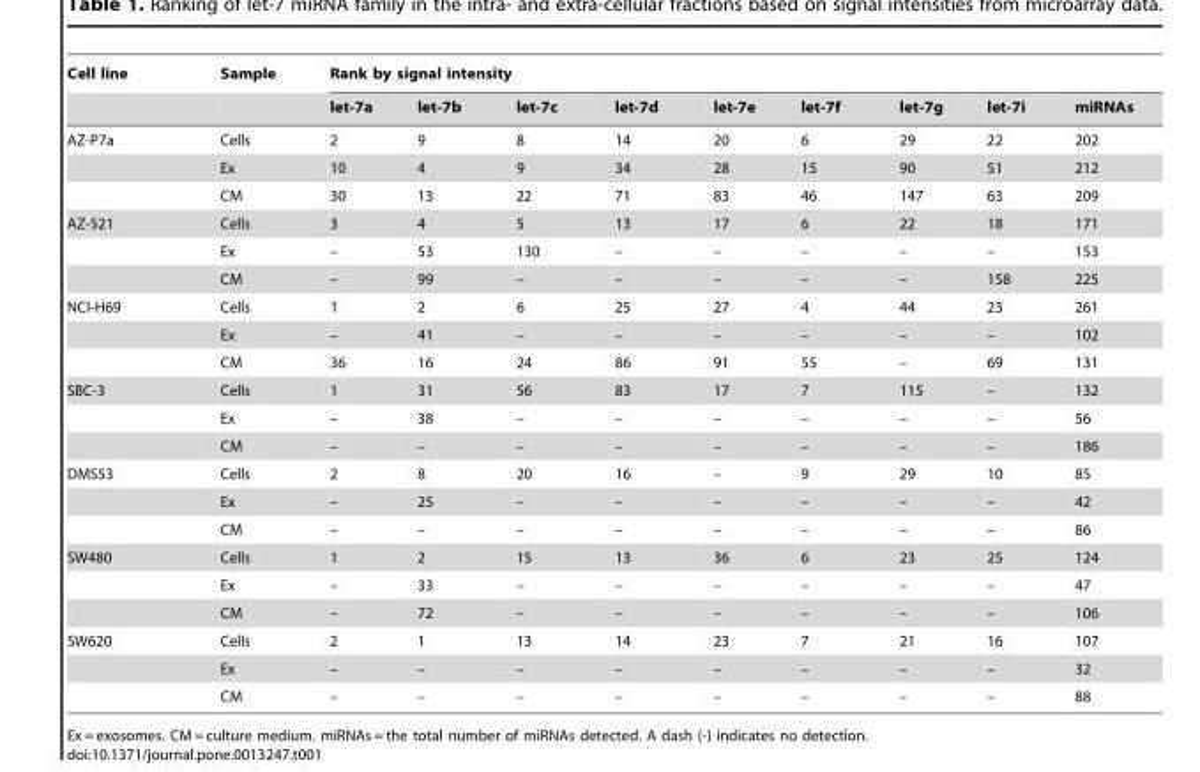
<table><thead><tr><td rowspan="2">Cell line</td><td rowspan="2">Sample</td><td colspan="9">Rank by signal intensity</td></tr><tr><td>let-7a</td><td>let-7b</td><td>let-7c</td><td>let-7d</td><td>let-7e</td><td>let-7f</td><td>let-7g</td><td>let-7i</td><td>miRNAs</td></tr></thead><tbody><tr><td rowspan="3">AZ-P7a</td><td>Cells</td><td>2</td><td>9</td><td>8</td><td>14</td><td>20</td><td>6</td><td>29</td><td>22</td><td>202</td></tr><tr><td>Ex</td><td>10</td><td>4</td><td>9</td><td>34</td><td>28</td><td>15</td><td>90</td><td>51</td><td>212</td></tr><tr><td>CM</td><td>30</td><td>13</td><td>22</td><td>71</td><td>83</td><td>46</td><td>147</td><td>63</td><td>209</td></tr><tr><td rowspan="3">AZ-521</td><td>Cells</td><td>3</td><td>4</td><td>5</td><td>13</td><td>17</td><td>6</td><td>22</td><td>18</td><td>171</td></tr><tr><td>Ex</td><td>–</td><td>53</td><td>130</td><td>–</td><td>–</td><td>–</td><td>–</td><td>–</td><td>153</td></tr><tr><td>CM</td><td>–</td><td>99</td><td>–</td><td>–</td><td>–</td><td>–</td><td>–</td><td>158</td><td>225</td></tr><tr><td rowspan="3">NCI-H69</td><td>Cells</td><td>1</td><td>2</td><td>6</td><td>25</td><td>27</td><td>4</td><td>44</td><td>23</td><td>261</td></tr><tr><td>Ex</td><td>–</td><td>41</td><td>–</td><td>–</td><td>–</td><td>–</td><td>–</td><td>–</td><td>102</td></tr><tr><td>CM</td><td>36</td><td>16</td><td>24</td><td>86</td><td>91</td><td>55</td><td>–</td><td>69</td><td>131</td></tr><tr><td rowspan="3">SBC-3</td><td>Cells</td><td>1</td><td>31</td><td>56</td><td>83</td><td>17</td><td>7</td><td>115</td><td>–</td><td>132</td></tr><tr><td>Ex</td><td>–</td><td>38</td><td>–</td><td>–</td><td>–</td><td>–</td><td>–</td><td>–</td><td>56</td></tr><tr><td>CM</td><td>–</td><td>–</td><td>–</td><td>–</td><td>–</td><td>–</td><td>–</td><td>–</td><td>186</td></tr><tr><td rowspan="3">DMS53</td><td>Cells</td><td>2</td><td>8</td><td>20</td><td>16</td><td>–</td><td>9</td><td>29</td><td>10</td><td>85</td></tr><tr><td>Ex</td><td>–</td><td>25</td><td>–</td><td>–</td><td>–</td><td>–</td><td>–</td><td>–</td><td>42</td></tr><tr><td>CM</td><td>–</td><td>–</td><td>–</td><td>–</td><td>–</td><td>–</td><td>–</td><td>–</td><td>86</td></tr><tr><td rowspan="3">SW480</td><td>Cells</td><td>1</td><td>2</td><td>15</td><td>13</td><td>36</td><td>6</td><td>23</td><td>25</td><td>124</td></tr><tr><td>Ex</td><td>–</td><td>33</td><td>–</td><td>–</td><td>–</td><td>–</td><td>–</td><td>–</td><td>47</td></tr><tr><td>CM</td><td>–</td><td>72</td><td>–</td><td>–</td><td>–</td><td>–</td><td>–</td><td>–</td><td>106</td></tr><tr><td rowspan="3">SW620</td><td>Cells</td><td>2</td><td>1</td><td>13</td><td>14</td><td>23</td><td>7</td><td>21</td><td>16</td><td>107</td></tr><tr><td>Ex</td><td>–</td><td>–</td><td>–</td><td>–</td><td>–</td><td>–</td><td>–</td><td>–</td><td>32</td></tr><tr><td>CM</td><td>–</td><td>–</td><td>–</td><td>–</td><td>–</td><td>–</td><td>–</td><td>–</td><td>88</td></tr></tbody></table>